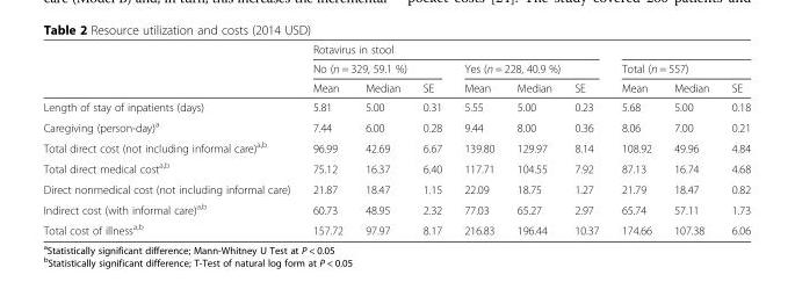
<table><thead><tr><td rowspan="3"></td><td colspan="6">Rotavirus in stool</td><td></td><td></td><td></td></tr><tr><td colspan="3">No (n = 329, 59.1 %)</td><td colspan="3">Yes (n = 228, 40.9 %)</td><td colspan="3">Total (n = 557)</td></tr><tr><td>Mean</td><td>Median</td><td>SE</td><td>Mean</td><td>Median</td><td>SE</td><td>Mean</td><td>Median</td><td>SE</td></tr></thead><tbody><tr><td>Length of stay of inpatients (days)</td><td>5.81</td><td>5.00</td><td>0.31</td><td>5.55</td><td>5.00</td><td>0.23</td><td>5.68</td><td>5.00</td><td>0.18</td></tr><tr><td>Caregiving (person-day)<sup>a</sup></td><td>7.44</td><td>6.00</td><td>0.28</td><td>9.44</td><td>8.00</td><td>0.36</td><td>8.06</td><td>7.00</td><td>0.21</td></tr><tr><td>Total direct cost (not including informal care)<sup>a,b</sup></td><td>96.99</td><td>42.69</td><td>6.67</td><td>139.80</td><td>129.97</td><td>8.14</td><td>108.92</td><td>49.96</td><td>4.84</td></tr><tr><td>Total direct medical cost<sup>a,b</sup></td><td>75.12</td><td>16.37</td><td>6.40</td><td>117.71</td><td>104.55</td><td>7.92</td><td>87.13</td><td>16.74</td><td>4.68</td></tr><tr><td>Direct nonmedical cost (not including informal care)</td><td>21.87</td><td>18.47</td><td>1.15</td><td>22.09</td><td>18.75</td><td>1.27</td><td>21.79</td><td>18.47</td><td>0.82</td></tr><tr><td>Indirect cost (with informal care)<sup>a,b</sup></td><td>60.73</td><td>48.95</td><td>2.32</td><td>77.03</td><td>65.27</td><td>2.97</td><td>65.74</td><td>57.11</td><td>1.73</td></tr><tr><td>Total cost of illness<sup>a,b</sup></td><td>157.72</td><td>97.97</td><td>8.17</td><td>216.83</td><td>196.44</td><td>10.37</td><td>174.66</td><td>107.38</td><td>6.06</td></tr></tbody></table>